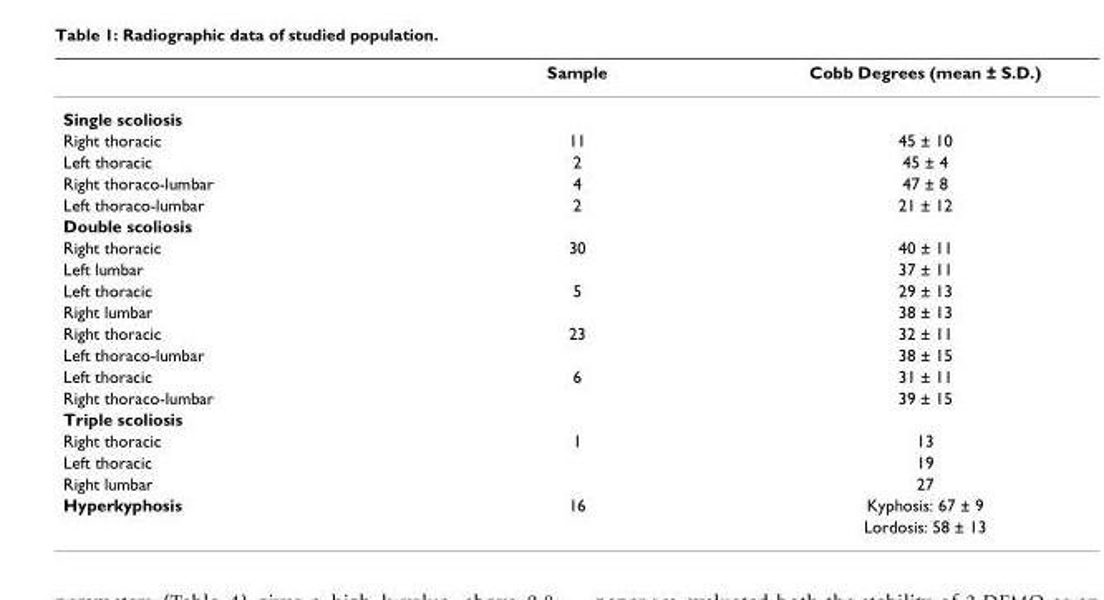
<table><thead><tr><td></td><td>Sample</td><td>Cobb Degrees (mean ± S.D.)</td></tr></thead><tbody><tr><td colspan="3">Single scoliosis</td></tr><tr><td>Right thoracic</td><td>11</td><td>45 ± 10</td></tr><tr><td>Left thoracic</td><td>2</td><td>45 ± 4</td></tr><tr><td>Right thoraco-lumbar</td><td>4</td><td>47 ± 8</td></tr><tr><td>Left thoraco-lumbar</td><td>2</td><td>21 ± 12</td></tr><tr><td colspan="3">Double scoliosis</td></tr><tr><td>Right thoracic</td><td>30</td><td>40 ± 11</td></tr><tr><td>Left lumbar</td><td></td><td>37 ± 11</td></tr><tr><td>Left thoracic</td><td>5</td><td>29 ± 13</td></tr><tr><td>Right lumbar</td><td></td><td>38 ± 13</td></tr><tr><td>Right thoracic</td><td>23</td><td>32 ± 11</td></tr><tr><td>Left thoraco-lumbar</td><td></td><td>38 ± 15</td></tr><tr><td>Left thoracic</td><td>6</td><td>31 ± 11</td></tr><tr><td>Right thoraco-lumbar</td><td></td><td>39 ± 15</td></tr><tr><td colspan="3">Triple scoliosis</td></tr><tr><td>Right thoracic</td><td>1</td><td>13</td></tr><tr><td>Left thoracic</td><td></td><td>19</td></tr><tr><td>Right lumbar</td><td></td><td>27</td></tr><tr><td rowspan="2">Hyperkyphosis</td><td>16</td><td>Kyphosis: 67 ± 9</td></tr><tr><td></td><td>Lordosis: 58 ± 13</td></tr></tbody></table>